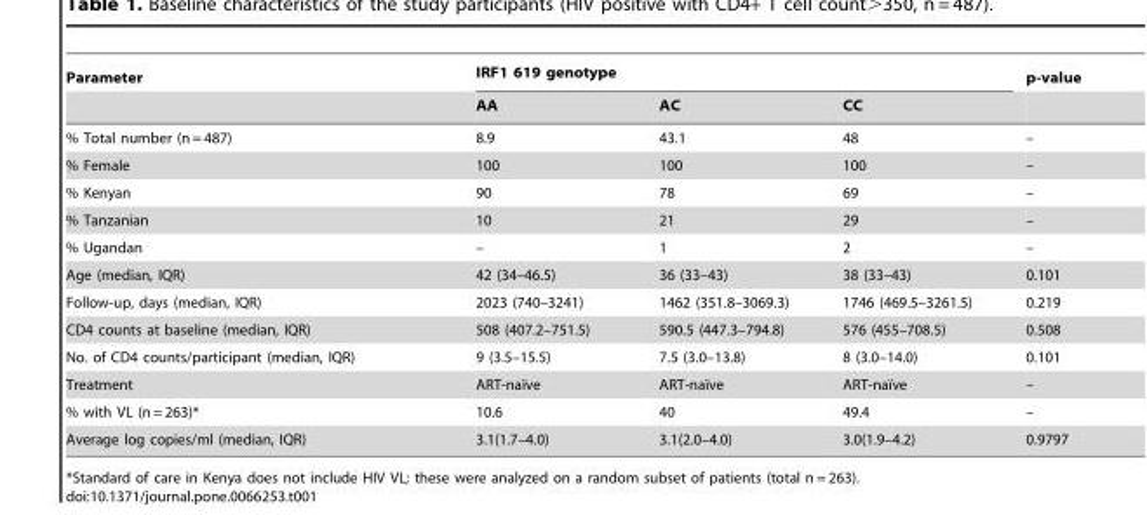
<table><thead><tr><td rowspan="2">Parameter</td><td colspan="3">IRF1 619 genotype</td><td rowspan="2">p-value</td></tr><tr><td>AA</td><td>AC</td><td>CC</td></tr></thead><tbody><tr><td>% Total number (n = 487)</td><td>8.9</td><td>43.1</td><td>48</td><td>–</td></tr><tr><td>% Female</td><td>100</td><td>100</td><td>100</td><td>–</td></tr><tr><td>% Kenyan</td><td>90</td><td>78</td><td>69</td><td>–</td></tr><tr><td>% Tanzanian</td><td>10</td><td>21</td><td>29</td><td>–</td></tr><tr><td>% Ugandan</td><td>–</td><td>1</td><td>2</td><td>–</td></tr><tr><td>Age (median, IQR)</td><td>42 (34–46.5)</td><td>36 (33–43)</td><td>38 (33–43)</td><td>0.101</td></tr><tr><td>Follow-up, days (median, IQR)</td><td>2023 (740–3241)</td><td>1462 (351.8–3069.3)</td><td>1746 (469.5–3261.5)</td><td>0.219</td></tr><tr><td>CD4 counts at baseline (median, IQR)</td><td>508 (407.2–751.5)</td><td>590.5 (447.3–794.8)</td><td>576 (455–708.5)</td><td>0.508</td></tr><tr><td>No. of CD4 counts/participant (median, IQR)</td><td>9 (3.5–15.5)</td><td>7.5 (3.0–13.8)</td><td>8 (3.0–14.0)</td><td>0.101</td></tr><tr><td>Treatment</td><td>ART-naı¨ve</td><td>ART-naı¨ve</td><td>ART-naı¨ve</td><td>–</td></tr><tr><td>% with VL (n = 263)*</td><td>10.6</td><td>40</td><td>49.4</td><td>–</td></tr><tr><td>Average log copies/ml (median, IQR)</td><td>3.1(1.7–4.0)</td><td>3.1(2.0–4.0)</td><td>3.0(1.9–4.2)</td><td>0.9797</td></tr></tbody></table>